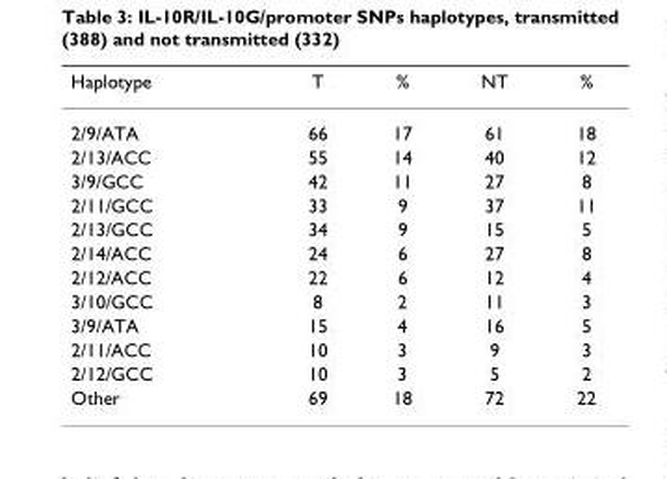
<table><thead><tr><td>Haplotype</td><td>T</td><td>%</td><td>NT</td><td>%</td></tr></thead><tbody><tr><td>2/9/ATA</td><td>66</td><td>17</td><td>61</td><td>18</td></tr><tr><td>2/13/ACC</td><td>55</td><td>14</td><td>40</td><td>12</td></tr><tr><td>3/9/GCC</td><td>42</td><td>11</td><td>27</td><td>8</td></tr><tr><td>2/11/GCC</td><td>33</td><td>9</td><td>37</td><td>11</td></tr><tr><td>2/13/GCC</td><td>34</td><td>9</td><td>15</td><td>5</td></tr><tr><td>2/14/ACC</td><td>24</td><td>6</td><td>27</td><td>8</td></tr><tr><td>2/12/ACC</td><td>22</td><td>6</td><td>12</td><td>4</td></tr><tr><td>3/10/GCC</td><td>8</td><td>2</td><td>11</td><td>3</td></tr><tr><td>3/9/ATA</td><td>15</td><td>4</td><td>16</td><td>5</td></tr><tr><td>2/11/ACC</td><td>10</td><td>3</td><td>9</td><td>3</td></tr><tr><td>2/12/GCC</td><td>10</td><td>3</td><td>5</td><td>2</td></tr><tr><td>Other</td><td>69</td><td>18</td><td>72</td><td>22</td></tr></tbody></table>